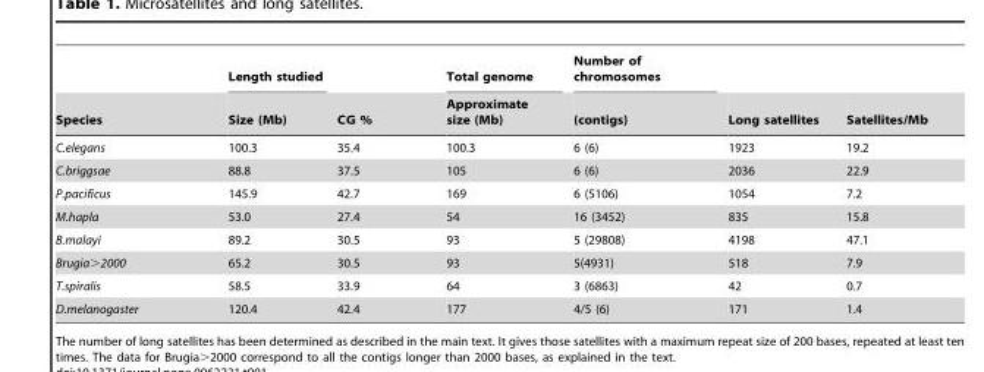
<table><thead><tr><td rowspan="2">Species</td><td rowspan="2">Length studied Size (Mb)</td><td rowspan="2">CG %</td><td rowspan="2">Total genome Approximate size (Mb)</td><td rowspan="2">Number of chromosomes (contigs)</td><td rowspan="2">Long satellites</td><td rowspan="2">Satellites/Mb</td></tr><tr></tr></thead><tbody><tr><td>C.elegans</td><td>100.3</td><td>35.4</td><td>100.3</td><td>6 (6)</td><td>1923</td><td>19.2</td></tr><tr><td>C.briggsae</td><td>88.8</td><td>37.5</td><td>105</td><td>6 (6)</td><td>2036</td><td>22.9</td></tr><tr><td>P.pacificus</td><td>145.9</td><td>42.7</td><td>169</td><td>6 (5106)</td><td>1054</td><td>7.2</td></tr><tr><td>M.hapla</td><td>53.0</td><td>27.4</td><td>54</td><td>16 (3452)</td><td>835</td><td>15.8</td></tr><tr><td>B.malayi</td><td>89.2</td><td>30.5</td><td>93</td><td>5 (29808)</td><td>4198</td><td>47.1</td></tr><tr><td>Brugia&gt;2000</td><td>65.2</td><td>30.5</td><td>93</td><td>5(4931)</td><td>518</td><td>7.9</td></tr><tr><td>T.spiralis</td><td>58.5</td><td>33.9</td><td>64</td><td>3 (6863)</td><td>42</td><td>0.7</td></tr><tr><td>D.melanogaster</td><td>120.4</td><td>42.4</td><td>177</td><td>4/5 (6)</td><td>171</td><td>1.4</td></tr></tbody></table>